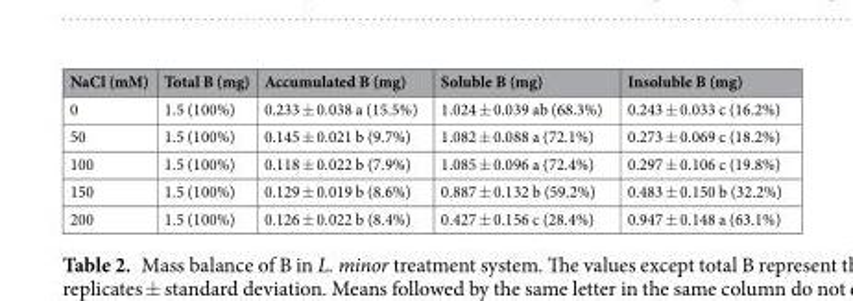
<table><thead><tr><td>NaCl (mM)</td><td>Total B (mg)</td><td>Accumulated B (mg)</td><td>Soluble B (mg)</td><td>Insoluble B (mg)</td></tr></thead><tbody><tr><td>0</td><td>1.5 (100%)</td><td>0.233 ± 0.038 a (15.5%)</td><td>1.024 ± 0.039 ab (68.3%)</td><td>0.243 ± 0.033 c (16.2%)</td></tr><tr><td>50</td><td>1.5 (100%)</td><td>0.145 ± 0.021 b (9.7%)</td><td>1.082 ± 0.088 a (72.1%)</td><td>0.273 ± 0.069 c (18.2%)</td></tr><tr><td>100</td><td>1.5 (100%)</td><td>0.118 ± 0.022 b (7.9%)</td><td>1.085 ± 0.096 a (72.4%)</td><td>0.297 ± 0.106 c (19.8%)</td></tr><tr><td>150</td><td>1.5 (100%)</td><td>0.129 ± 0.019 b (8.6%)</td><td>0.887 ± 0.132 b (59.2%)</td><td>0.483 ± 0.150 b (32.2%)</td></tr><tr><td>200</td><td>1.5 (100%)</td><td>0.126 ± 0.022 b (8.4%)</td><td>0.427 ± 0.156 c (28.4%)</td><td>0.947 ± 0.148 a (63.1%)</td></tr></tbody></table>